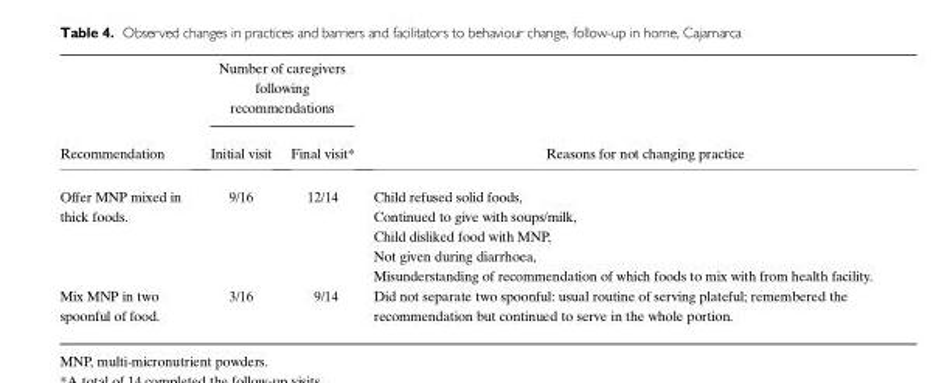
<table><thead><tr><td rowspan="2">Recommendation</td><td colspan="2">Number of caregivers following recommendations</td><td rowspan="2">Reasons for not changing practice</td></tr><tr><td>Initial visit</td><td>Final visit*</td></tr></thead><tbody><tr><td rowspan="5">Offer MNP mixed in thick foods.</td><td rowspan="5">9/16</td><td rowspan="5">12/14</td><td>Child refused solid foods,</td></tr><tr><td>Continued to give with soups/milk,</td></tr><tr><td>Child disliked food with MNP,</td></tr><tr><td>Not given during diarrhoea,</td></tr><tr><td>Misunderstanding of recommendation of which foods to mix with from health facility.</td></tr><tr><td>Mix MNP in two spoonful of food.</td><td>3/16</td><td>9/14</td><td>Did not separate two spoonful: usual routine of serving plateful; remembered the recommendation but continued to serve in the whole portion.</td></tr></tbody></table>